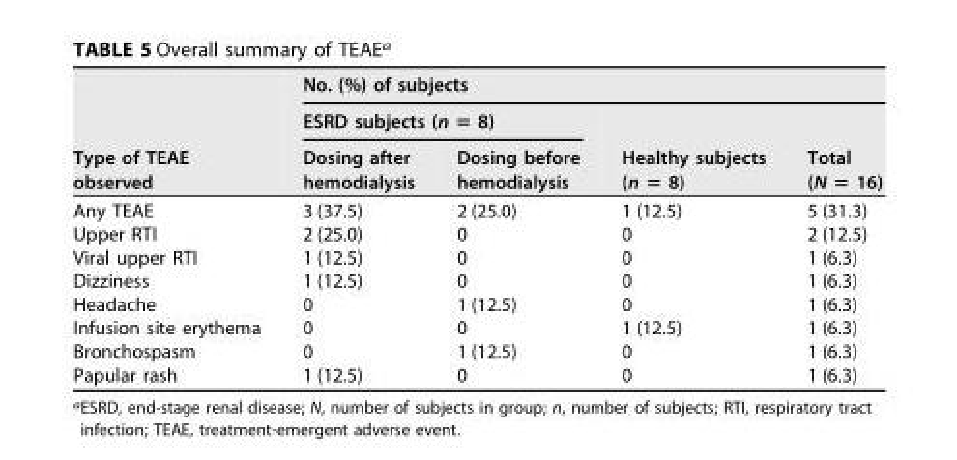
<table><thead><tr><td rowspan="3">Type of TEAE observed</td><td colspan="4">No. (%) of subjects</td></tr><tr><td colspan="2">ESRD subjects (n = 8)</td><td rowspan="2">Healthy subjects (n = 8)</td><td rowspan="2">Total (N = 16)</td></tr><tr><td>Dosing after hemodialysis</td><td>Dosing before hemodialysis</td></tr></thead><tbody><tr><td>Any TEAE</td><td>3 (37.5)</td><td>2 (25.0)</td><td>1 (12.5)</td><td>5 (31.3)</td></tr><tr><td>Upper RTI</td><td>2 (25.0)</td><td>0</td><td>0</td><td>2 (12.5)</td></tr><tr><td>Viral upper RTI</td><td>1 (12.5)</td><td>0</td><td>0</td><td>1 (6.3)</td></tr><tr><td>Dizziness</td><td>1 (12.5)</td><td>0</td><td>0</td><td>1 (6.3)</td></tr><tr><td>Headache</td><td>0</td><td>1 (12.5)</td><td>0</td><td>1 (6.3)</td></tr><tr><td>Infusion site erythema</td><td>0</td><td>0</td><td>1 (12.5)</td><td>1 (6.3)</td></tr><tr><td>Bronchospasm</td><td>0</td><td>1 (12.5)</td><td>0</td><td>1 (6.3)</td></tr><tr><td>Papular rash</td><td>1 (12.5)</td><td>0</td><td>0</td><td>1 (6.3)</td></tr></tbody></table>